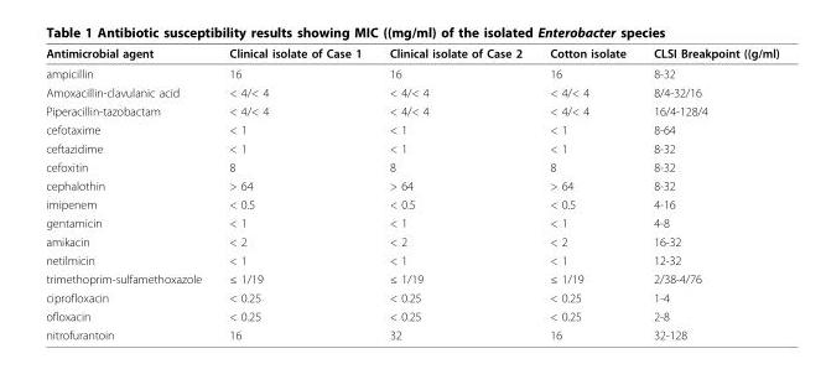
<table><thead><tr><td>Antimicrobial agent</td><td>Clinical isolate of Case 1</td><td>Clinical isolate of Case 2</td><td>Cotton isolate</td><td>CLSI Breakpoint ((g/ml)</td></tr></thead><tbody><tr><td>ampicillin</td><td>16</td><td>16</td><td>16</td><td>8-32</td></tr><tr><td>Amoxacillin-clavulanic acid</td><td>&lt; 4/&lt; 4</td><td>&lt; 4/&lt; 4</td><td>&lt; 4/&lt; 4</td><td>8/4-32/16</td></tr><tr><td>Piperacillin-tazobactam</td><td>&lt; 4/&lt; 4</td><td>&lt; 4/&lt; 4</td><td>&lt; 4/&lt; 4</td><td>16/4-128/4</td></tr><tr><td>cefotaxime</td><td>&lt; 1</td><td>&lt; 1</td><td>&lt; 1</td><td>8-64</td></tr><tr><td>ceftazidime</td><td>&lt; 1</td><td>&lt; 1</td><td>&lt; 1</td><td>8-32</td></tr><tr><td>cefoxitin</td><td>8</td><td>8</td><td>8</td><td>8-32</td></tr><tr><td>cephalothin</td><td>&gt; 64</td><td>&gt; 64</td><td>&gt; 64</td><td>8-32</td></tr><tr><td>imipenem</td><td>&lt; 0.5</td><td>&lt; 0.5</td><td>&lt; 0.5</td><td>4-16</td></tr><tr><td>gentamicin</td><td>&lt; 1</td><td>&lt; 1</td><td>&lt; 1</td><td>4-8</td></tr><tr><td>amikacin</td><td>&lt; 2</td><td>&lt; 2</td><td>&lt; 2</td><td>16-32</td></tr><tr><td>netilmicin</td><td>&lt; 1</td><td>&lt; 1</td><td>&lt; 1</td><td>12-32</td></tr><tr><td>trimethoprim-sulfamethoxazole</td><td>≤ 1/19</td><td>≤ 1/19</td><td>≤ 1/19</td><td>2/38-4/76</td></tr><tr><td>ciprofloxacin</td><td>&lt; 0.25</td><td>&lt; 0.25</td><td>&lt; 0.25</td><td>1-4</td></tr><tr><td>ofloxacin</td><td>&lt; 0.25</td><td>&lt; 0.25</td><td>&lt; 0.25</td><td>2-8</td></tr><tr><td>nitrofurantoin</td><td>16</td><td>32</td><td>16</td><td>32-128</td></tr></tbody></table>